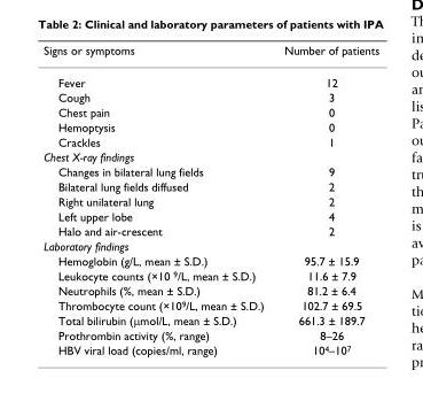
<table><thead><tr><td>Signs or symptoms</td><td>Number of patients</td></tr></thead><tbody><tr><td>Fever</td><td>12</td></tr><tr><td>Cough</td><td>3</td></tr><tr><td>Chest pain</td><td>0</td></tr><tr><td>Hemoptysis</td><td>0</td></tr><tr><td>Crackles</td><td>1</td></tr><tr><td colspan="2">Chest X-ray findings</td></tr><tr><td>Changes in bilateral lung fields</td><td>9</td></tr><tr><td>Bilateral lung fields diffused</td><td>2</td></tr><tr><td>Right unilateral lung</td><td>2</td></tr><tr><td>Left upper lobe</td><td>4</td></tr><tr><td>Halo and air-crescent</td><td>2</td></tr><tr><td colspan="2">Laboratory findings</td></tr><tr><td>Hemoglobin (g/L, mean ± S.D.)</td><td>95.7 ± 15.9</td></tr><tr><td>Leukocyte counts (×10 <sup>9</sup>/L, mean ± S.D.)</td><td>11.6 ± 7.9</td></tr><tr><td>Neutrophils (%, mean ± S.D.)</td><td>81.2 ± 6.4</td></tr><tr><td>Thrombocyte count (×10<sup>9</sup>/L, mean ± S.D.)</td><td>102.7 ± 69.5</td></tr><tr><td>Total bilirubin (μmol/L, mean ± S.D.)</td><td>661.3 ± 189.7</td></tr><tr><td>Prothrombin activity (%, range)</td><td>8–26</td></tr><tr><td>HBV viral load (copies/ml, range)</td><td>10<sup>4</sup>–10<sup>7</sup></td></tr></tbody></table>